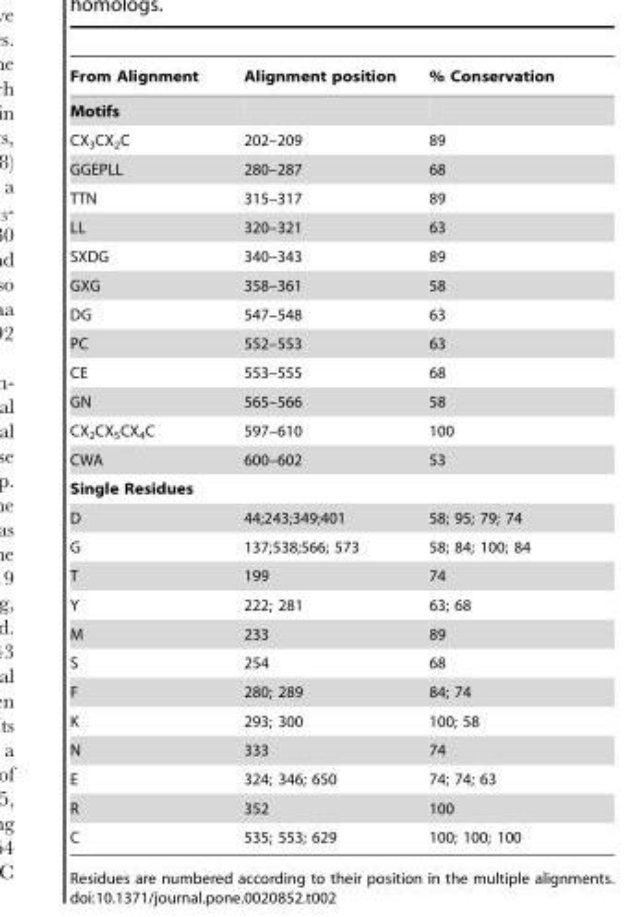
<table><thead><tr><td>From Alignment</td><td>Alignment position</td><td>% Conservation</td></tr></thead><tbody><tr><td colspan="3">Motifs</td></tr><tr><td>CX<sub>3</sub>CX<sub>2</sub>C</td><td>202–209</td><td>89</td></tr><tr><td>GGEPLL</td><td>280–287</td><td>68</td></tr><tr><td>TTN</td><td>315–317</td><td>89</td></tr><tr><td>LL</td><td>320–321</td><td>63</td></tr><tr><td>SXDG</td><td>340–343</td><td>89</td></tr><tr><td>GXG</td><td>358–361</td><td>58</td></tr><tr><td>DG</td><td>547–548</td><td>63</td></tr><tr><td>PC</td><td>552–553</td><td>63</td></tr><tr><td>CE</td><td>553–555</td><td>68</td></tr><tr><td>GN</td><td>565–566</td><td>58</td></tr><tr><td>CX<sub>2</sub>CX<sub>5</sub>CX<sub>4</sub>C</td><td>597–610</td><td>100</td></tr><tr><td>CWA</td><td>600–602</td><td>53</td></tr><tr><td colspan="3">Single Residues</td></tr><tr><td>D</td><td>44;243;349;401</td><td>58; 95; 79; 74</td></tr><tr><td>G</td><td>137;538;566; 573</td><td>58; 84; 100; 84</td></tr><tr><td>T</td><td>199</td><td>74</td></tr><tr><td>Y</td><td>222; 281</td><td>63; 68</td></tr><tr><td>M</td><td>233</td><td>89</td></tr><tr><td>S</td><td>254</td><td>68</td></tr><tr><td>F</td><td>280; 289</td><td>84; 74</td></tr><tr><td>K</td><td>293; 300</td><td>100; 58</td></tr><tr><td>N</td><td>333</td><td>74</td></tr><tr><td>E</td><td>324; 346; 650</td><td>74; 74; 63</td></tr><tr><td>R</td><td>352</td><td>100</td></tr><tr><td>C</td><td>535; 553; 629</td><td>100; 100; 100</td></tr></tbody></table>